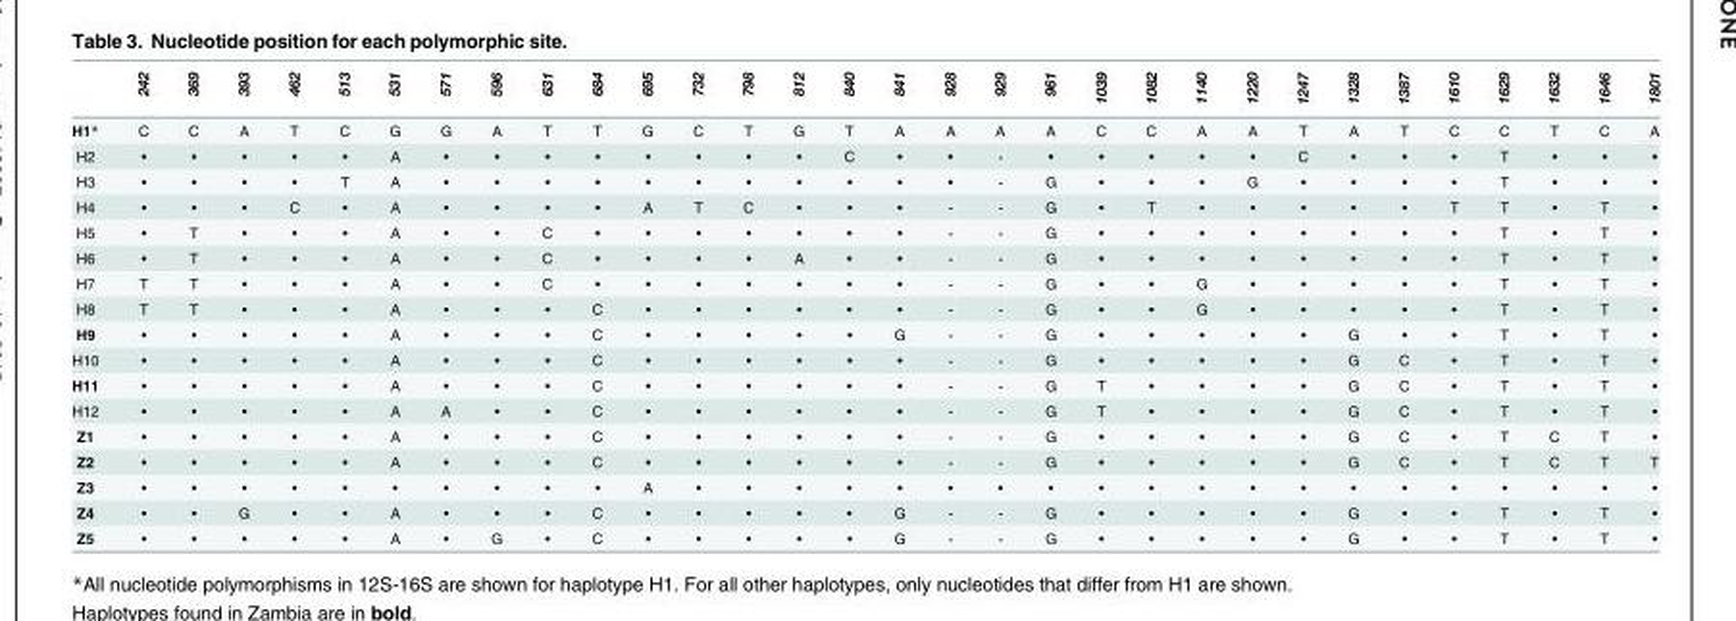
<table><thead><tr><td></td><td>242</td><td>369</td><td>393</td><td>462</td><td>513</td><td>531</td><td>571</td><td>596</td><td>631</td><td>684</td><td>695</td><td>732</td><td>798</td><td>812</td><td>840</td><td>841</td><td>928</td><td>929</td><td>961</td><td>1039</td><td>1082</td><td>1140</td><td>1220</td><td>1247</td><td>1328</td><td>1387</td><td>1610</td><td>1629</td><td>1632</td><td>1646</td><td>1801</td></tr></thead><tbody><tr><td>H1*</td><td>C</td><td>C</td><td>A</td><td>T</td><td>C</td><td>G</td><td>G</td><td>A</td><td>T</td><td>T</td><td>G</td><td>C</td><td>T</td><td>G</td><td>T</td><td>A</td><td>A</td><td>A</td><td>A</td><td>C</td><td>C</td><td>A</td><td>A</td><td>T</td><td>A</td><td>T</td><td>C</td><td>C</td><td>T</td><td>C</td><td>A</td></tr><tr><td>H2</td><td>•</td><td>•</td><td>•</td><td>•</td><td>•</td><td>A</td><td>•</td><td>•</td><td>•</td><td>•</td><td>•</td><td>•</td><td>•</td><td>•</td><td>C</td><td>•</td><td>•</td><td>-</td><td>•</td><td>•</td><td>•</td><td>•</td><td>•</td><td>C</td><td>•</td><td>•</td><td>•</td><td>T</td><td>•</td><td>•</td><td>•</td></tr><tr><td>H3</td><td>•</td><td>•</td><td>•</td><td>•</td><td>T</td><td>A</td><td>•</td><td>•</td><td>•</td><td>•</td><td>•</td><td>•</td><td>•</td><td>•</td><td>•</td><td>•</td><td>•</td><td>-</td><td>G</td><td>•</td><td>•</td><td>•</td><td>G</td><td>•</td><td>•</td><td>•</td><td>•</td><td>T</td><td>•</td><td>•</td><td>•</td></tr><tr><td>H4</td><td>•</td><td>•</td><td>•</td><td>C</td><td>•</td><td>A</td><td>•</td><td>•</td><td>•</td><td>•</td><td>A</td><td>T</td><td>C</td><td>•</td><td>•</td><td>•</td><td>-</td><td>-</td><td>G</td><td>•</td><td>T</td><td>•</td><td>•</td><td>•</td><td>•</td><td>•</td><td>T</td><td>T</td><td>•</td><td>T</td><td>•</td></tr><tr><td>H5</td><td>•</td><td>T</td><td>•</td><td>•</td><td>•</td><td>A</td><td>•</td><td>•</td><td>C</td><td>•</td><td>•</td><td>•</td><td>•</td><td>•</td><td>•</td><td>•</td><td>-</td><td>-</td><td>G</td><td>•</td><td>•</td><td>•</td><td>•</td><td>•</td><td>•</td><td>•</td><td>•</td><td>T</td><td>•</td><td>T</td><td>•</td></tr><tr><td>H6</td><td>•</td><td>T</td><td>•</td><td>•</td><td>•</td><td>A</td><td>•</td><td>•</td><td>C</td><td>•</td><td>•</td><td>•</td><td>•</td><td>A</td><td>•</td><td>•</td><td>-</td><td>-</td><td>G</td><td>•</td><td>•</td><td>•</td><td>•</td><td>•</td><td>•</td><td>•</td><td>•</td><td>T</td><td>•</td><td>T</td><td>•</td></tr><tr><td>H7</td><td>T</td><td>T</td><td>•</td><td>•</td><td>•</td><td>A</td><td>•</td><td>•</td><td>C</td><td>•</td><td>•</td><td>•</td><td>•</td><td>•</td><td>•</td><td>•</td><td>-</td><td>-</td><td>G</td><td>•</td><td>•</td><td>G</td><td>•</td><td>•</td><td>•</td><td>•</td><td>•</td><td>T</td><td>•</td><td>T</td><td>•</td></tr><tr><td>H8</td><td>T</td><td>T</td><td>•</td><td>•</td><td>•</td><td>A</td><td>•</td><td>•</td><td>•</td><td>C</td><td>•</td><td>•</td><td>•</td><td>•</td><td>•</td><td>•</td><td>-</td><td>-</td><td>G</td><td>•</td><td>•</td><td>G</td><td>•</td><td>•</td><td>•</td><td>•</td><td>•</td><td>T</td><td>•</td><td>T</td><td>•</td></tr><tr><td>H9</td><td>•</td><td>•</td><td>•</td><td>•</td><td>•</td><td>A</td><td>•</td><td>•</td><td>•</td><td>C</td><td>•</td><td>•</td><td>•</td><td>•</td><td>•</td><td>G</td><td>-</td><td>-</td><td>G</td><td>•</td><td>•</td><td>•</td><td>•</td><td>•</td><td>G</td><td>•</td><td>•</td><td>T</td><td>•</td><td>T</td><td>•</td></tr><tr><td>H10</td><td>•</td><td>•</td><td>•</td><td>•</td><td>•</td><td>A</td><td>•</td><td>•</td><td>•</td><td>C</td><td>•</td><td>•</td><td>•</td><td>•</td><td>•</td><td>•</td><td>-</td><td>-</td><td>G</td><td>•</td><td>•</td><td>•</td><td>•</td><td>•</td><td>G</td><td>C</td><td>•</td><td>T</td><td>•</td><td>T</td><td>•</td></tr><tr><td>H11</td><td>•</td><td>•</td><td>•</td><td>•</td><td>•</td><td>A</td><td>•</td><td>•</td><td>•</td><td>C</td><td>•</td><td>•</td><td>•</td><td>•</td><td>•</td><td>•</td><td>-</td><td>-</td><td>G</td><td>T</td><td>•</td><td>•</td><td>•</td><td>•</td><td>G</td><td>C</td><td>•</td><td>T</td><td>•</td><td>T</td><td>•</td></tr><tr><td>H12</td><td>•</td><td>•</td><td>•</td><td>•</td><td>•</td><td>A</td><td>A</td><td>•</td><td>•</td><td>C</td><td>•</td><td>•</td><td>•</td><td>•</td><td>•</td><td>•</td><td>-</td><td>-</td><td>G</td><td>T</td><td>•</td><td>•</td><td>•</td><td>•</td><td>G</td><td>C</td><td>•</td><td>T</td><td>•</td><td>T</td><td>•</td></tr><tr><td>Z1</td><td>•</td><td>•</td><td>•</td><td>•</td><td>•</td><td>A</td><td>•</td><td>•</td><td>•</td><td>C</td><td>•</td><td>•</td><td>•</td><td>•</td><td>•</td><td>•</td><td>-</td><td>-</td><td>G</td><td>•</td><td>•</td><td>•</td><td>•</td><td>•</td><td>G</td><td>C</td><td>•</td><td>T</td><td>C</td><td>T</td><td>•</td></tr><tr><td>Z2</td><td>•</td><td>•</td><td>•</td><td>•</td><td>•</td><td>A</td><td>•</td><td>•</td><td>•</td><td>C</td><td>•</td><td>•</td><td>•</td><td>•</td><td>•</td><td>•</td><td>-</td><td>-</td><td>G</td><td>•</td><td>•</td><td>•</td><td>•</td><td>•</td><td>G</td><td>C</td><td>•</td><td>T</td><td>C</td><td>T</td><td>T</td></tr><tr><td>Z3</td><td>•</td><td>•</td><td>•</td><td>•</td><td>•</td><td>•</td><td>•</td><td>•</td><td>•</td><td>•</td><td>A</td><td>•</td><td>•</td><td>•</td><td>•</td><td>•</td><td>•</td><td>•</td><td>•</td><td>•</td><td>•</td><td>•</td><td>•</td><td>•</td><td>•</td><td>•</td><td>•</td><td>•</td><td>•</td><td>•</td><td>•</td></tr><tr><td>Z4</td><td>•</td><td>•</td><td>G</td><td>•</td><td>•</td><td>A</td><td>•</td><td>•</td><td>•</td><td>C</td><td>•</td><td>•</td><td>•</td><td>•</td><td>•</td><td>G</td><td>-</td><td>-</td><td>G</td><td>•</td><td>•</td><td>•</td><td>•</td><td>•</td><td>G</td><td>•</td><td>•</td><td>T</td><td>•</td><td>T</td><td>•</td></tr><tr><td>Z5</td><td>•</td><td>•</td><td>•</td><td>•</td><td>•</td><td>A</td><td>•</td><td>G</td><td>•</td><td>C</td><td>•</td><td>•</td><td>•</td><td>•</td><td>•</td><td>G</td><td>-</td><td>-</td><td>G</td><td>•</td><td>•</td><td>•</td><td>•</td><td>•</td><td>G</td><td>•</td><td>•</td><td>T</td><td>•</td><td>T</td><td>•</td></tr></tbody></table>